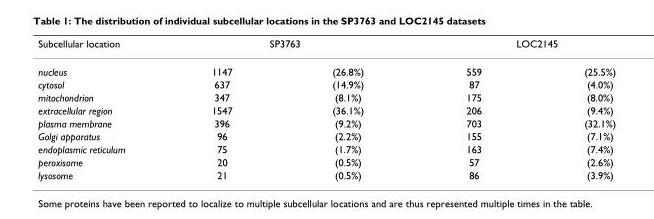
<table><thead><tr><td rowspan="2">Subcellular location nucleus</td><td colspan="2">SP3763</td><td colspan="2">LOC2145</td></tr><tr><td>1147</td><td>(26.8%)</td><td>559</td><td>(25.5%)</td></tr></thead><tbody><tr><td>cytosol</td><td>637</td><td>(14.9%)</td><td>87</td><td>(4.0%)</td></tr><tr><td>mitochondrion</td><td>347</td><td>(8.1%)</td><td>175</td><td>(8.0%)</td></tr><tr><td>extracellular region</td><td>1547</td><td>(36.1%)</td><td>206</td><td>(9.4%)</td></tr><tr><td>plasma membrane</td><td>396</td><td>(9.2%)</td><td>703</td><td>(32.1%)</td></tr><tr><td>Golgi apparatus</td><td>96</td><td>(2.2%)</td><td>155</td><td>(7.1%)</td></tr><tr><td>endoplasmic reticulum</td><td>75</td><td>(1.7%)</td><td>163</td><td>(7.4%)</td></tr><tr><td>peroxisome</td><td>20</td><td>(0.5%)</td><td>57</td><td>(2.6%)</td></tr><tr><td>lysosome</td><td>21</td><td>(0.5%)</td><td>86</td><td>(3.9%)</td></tr></tbody></table>